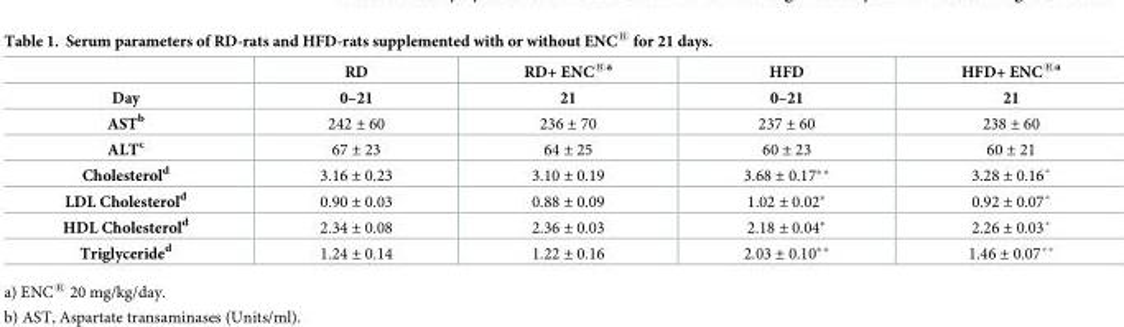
<table><thead><tr><td></td><td>RD</td><td>RD+ ENC<sup>®a</sup></td><td>HFD</td><td>HFD+ ENC<sup>®a</sup></td></tr></thead><tbody><tr><td>Day</td><td>0–21</td><td>21</td><td>0–21</td><td>21</td></tr><tr><td>AST<sup>b</sup></td><td>242 ± 60</td><td>236 ± 70</td><td>237 ± 60</td><td>238 ± 60</td></tr><tr><td>ALT<sup>c</sup></td><td>67 ± 23</td><td>64 ± 25</td><td>60 ± 23</td><td>60 ± 21</td></tr><tr><td>Cholesterol<sup>d</sup></td><td>3.16 ± 0.23</td><td>3.10 ± 0.19</td><td>3.68 ± 0.17**</td><td>3.28 ± 0.16˚</td></tr><tr><td>LDL Cholesterol<sup>d</sup></td><td>0.90 ± 0.03</td><td>0.88 ± 0.09</td><td>1.02 ± 0.02*</td><td>0.92 ± 0.07˚</td></tr><tr><td>HDL Cholesterol<sup>d</sup></td><td>2.34 ± 0.08</td><td>2.36 ± 0.03</td><td>2.18 ± 0.04*</td><td>2.26 ± 0.03˚</td></tr><tr><td>Triglyceride<sup>d</sup></td><td>1.24 ± 0.14</td><td>1.22 ± 0.16</td><td>2.03 ± 0.10**</td><td>1.46 ± 0.07˚˚</td></tr></tbody></table>